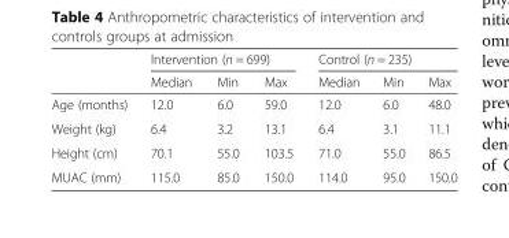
<table><thead><tr><td rowspan="2"></td><td colspan="3">Intervention (n = 699)</td><td colspan="3">Control (n = 235)</td></tr><tr><td>Median</td><td>Min</td><td>Max</td><td>Median</td><td>Min</td><td>Max</td></tr></thead><tbody><tr><td>Age (months)</td><td>12.0</td><td>6.0</td><td>59.0</td><td>12.0</td><td>6.0</td><td>48.0</td></tr><tr><td>Weight (kg)</td><td>6.4</td><td>3.2</td><td>13.1</td><td>6.4</td><td>3.1</td><td>11.1</td></tr><tr><td>Height (cm)</td><td>70.1</td><td>55.0</td><td>103.5</td><td>71.0</td><td>55.0</td><td>86.5</td></tr><tr><td>MUAC (mm)</td><td>115.0</td><td>85.0</td><td>150.0</td><td>114.0</td><td>95.0</td><td>150.0</td></tr></tbody></table>